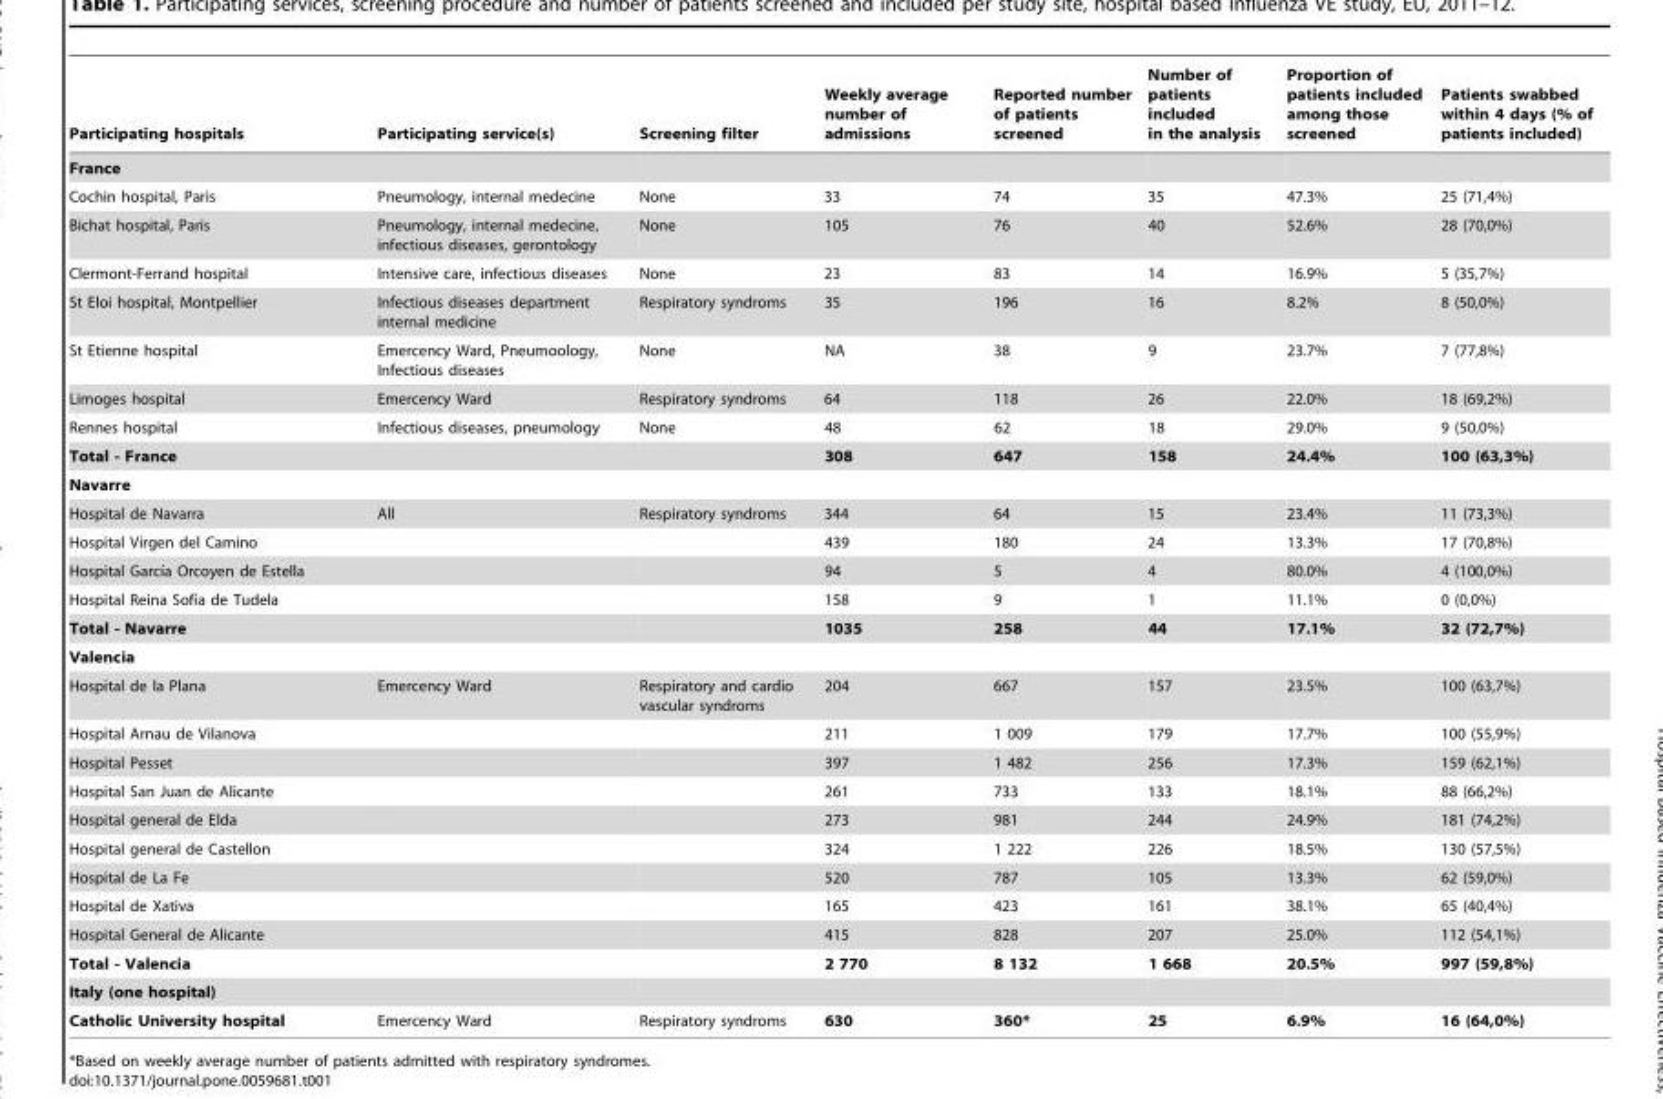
<table><thead><tr><td>Participating hospitals</td><td>Participating service(s)</td><td>Screening filter</td><td>Weekly average number of admissions</td><td>Reported number of patients screened</td><td>Number of patients included in the analysis</td><td>Proportion of patients included among those screened</td><td>Patients swabbed within 4 days (% of patients included)</td></tr></thead><tbody><tr><td colspan="8">France</td></tr><tr><td>Cochin hospital, Paris</td><td>Pneumology, internal medecine</td><td>None</td><td>33</td><td>74</td><td>35</td><td>47.3%</td><td>25 (71,4%)</td></tr><tr><td>Bichat hospital, Paris</td><td>Pneumology, internal medecine, infectious diseases, gerontology</td><td>None</td><td>105</td><td>76</td><td>40</td><td>52.6%</td><td>28 (70,0%)</td></tr><tr><td>Clermont-Ferrand hospital</td><td>Intensive care, infectious diseases</td><td>None</td><td>23</td><td>83</td><td>14</td><td>16.9%</td><td>5 (35,7%)</td></tr><tr><td>St Eloi hospital, Montpellier</td><td>Infectious diseases department internal medicine</td><td>Respiratory syndroms</td><td>35</td><td>196</td><td>16</td><td>8.2%</td><td>8 (50,0%)</td></tr><tr><td>St Etienne hospital</td><td>Emercency Ward, Pneumoology, Infectious diseases</td><td>None</td><td>NA</td><td>38</td><td>9</td><td>23.7%</td><td>7 (77,8%)</td></tr><tr><td>Limoges hospital</td><td>Emercency Ward</td><td>Respiratory syndroms</td><td>64</td><td>118</td><td>26</td><td>22.0%</td><td>18 (69,2%)</td></tr><tr><td>Rennes hospital</td><td>Infectious diseases, pneumology</td><td>None</td><td>48</td><td>62</td><td>18</td><td>29.0%</td><td>9 (50,0%)</td></tr><tr><td>Total - France</td><td></td><td></td><td>308</td><td>647</td><td>158</td><td>24.4%</td><td>100 (63,3%)</td></tr><tr><td colspan="8">Navarre</td></tr><tr><td>Hospital de Navarra</td><td>All</td><td>Respiratory syndroms</td><td>344</td><td>64</td><td>15</td><td>23.4%</td><td>11 (73,3%)</td></tr><tr><td>Hospital Virgen del Camino</td><td></td><td></td><td>439</td><td>180</td><td>24</td><td>13.3%</td><td>17 (70,8%)</td></tr><tr><td>Hospital Garcı´a Orcoyen de Estella</td><td></td><td></td><td>94</td><td>5</td><td>4</td><td>80.0%</td><td>4 (100,0%)</td></tr><tr><td>Hospital Reina Sofı´a de Tudela</td><td></td><td></td><td>158</td><td>9</td><td>1</td><td>11.1%</td><td>0 (0,0%)</td></tr><tr><td>Total - Navarre</td><td></td><td></td><td>1035</td><td>258</td><td>44</td><td>17.1%</td><td>32 (72,7%)</td></tr><tr><td colspan="8">Valencia</td></tr><tr><td>Hospital de la Plana</td><td>Emercency Ward</td><td>Respiratory and cardio vascular syndroms</td><td>204</td><td>667</td><td>157</td><td>23.5%</td><td>100 (63,7%)</td></tr><tr><td>Hospital Arnau de Vilanova</td><td></td><td></td><td>211</td><td>1 009</td><td>179</td><td>17.7%</td><td>100 (55,9%)</td></tr><tr><td>Hospital Pesset</td><td></td><td></td><td>397</td><td>1 482</td><td>256</td><td>17.3%</td><td>159 (62,1%)</td></tr><tr><td>Hospital San Juan de Alicante</td><td></td><td></td><td>261</td><td>733</td><td>133</td><td>18.1%</td><td>88 (66,2%)</td></tr><tr><td>Hospital general de Elda</td><td></td><td></td><td>273</td><td>981</td><td>244</td><td>24.9%</td><td>181 (74,2%)</td></tr><tr><td>Hospital general de Castellon</td><td></td><td></td><td>324</td><td>1 222</td><td>226</td><td>18.5%</td><td>130 (57,5%)</td></tr><tr><td>Hospital de La Fe</td><td></td><td></td><td>520</td><td>787</td><td>105</td><td>13.3%</td><td>62 (59,0%)</td></tr><tr><td>Hospital de Xativa</td><td></td><td></td><td>165</td><td>423</td><td>161</td><td>38.1%</td><td>65 (40,4%)</td></tr><tr><td>Hospital General de Alicante</td><td></td><td></td><td>415</td><td>828</td><td>207</td><td>25.0%</td><td>112 (54,1%)</td></tr><tr><td>Total - Valencia</td><td></td><td></td><td>2 770</td><td>8 132</td><td>1 668</td><td>20.5%</td><td>997 (59,8%)</td></tr><tr><td colspan="8">Italy (one hospital)</td></tr><tr><td>Catholic University hospital</td><td>Emercency Ward</td><td>Respiratory syndroms</td><td>630</td><td>360*</td><td>25</td><td>6.9%</td><td>16 (64,0%)</td></tr></tbody></table>